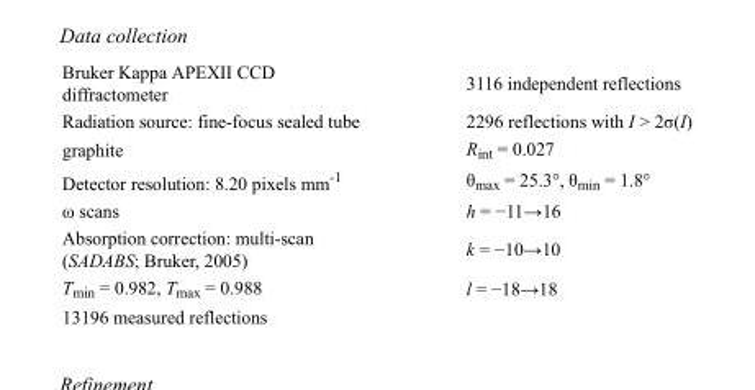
<table><tbody><tr><td>Bruker Kappa APEXII CCD diffractometer</td><td>3116 independent reflections</td></tr><tr><td>Radiation source: fine-focus sealed tube</td><td>2296 reflections with I &gt; 2σ(I)</td></tr><tr><td>graphite</td><td>R<sub>int</sub> = 0.027</td></tr><tr><td>Detector resolution: 8.20 pixels mm<sup>-1</sup></td><td>θ<sub>max</sub> = 25.3°, θ<sub>min</sub> = 1.8°</td></tr><tr><td>ω scans</td><td>h = −11→16</td></tr><tr><td>Absorption correction: multi-scan (SADABS; Bruker, 2005)</td><td>k = −10→10</td></tr><tr><td>T<sub>min</sub> = 0.982, T<sub>max</sub> = 0.988</td><td>l = −18→18</td></tr><tr><td>13196 measured reflections</td><td></td></tr></tbody></table>